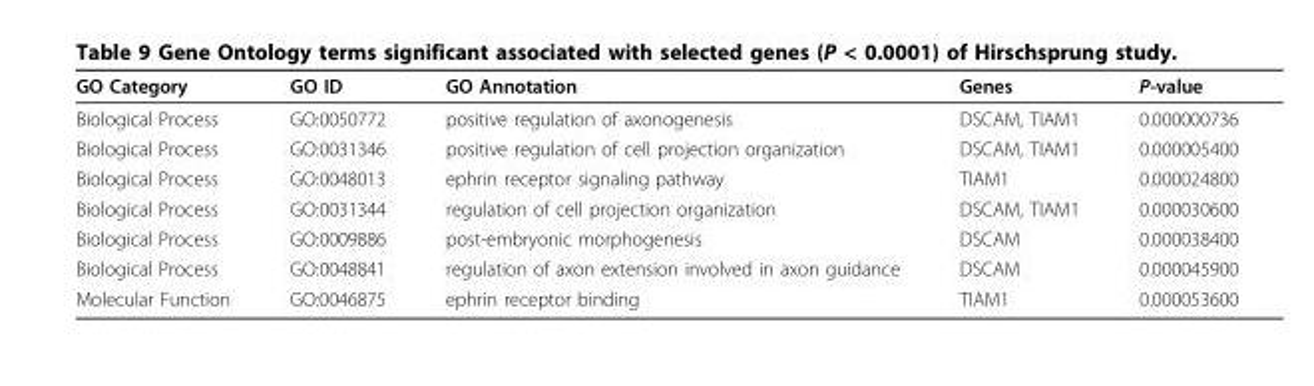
<table><thead><tr><td>GO Category</td><td>GO ID</td><td>GO Annotation</td><td>Genes</td><td>P-value</td></tr></thead><tbody><tr><td>Biological Process</td><td>GO:0050772</td><td>positive regulation of axonogenesis</td><td>DSCAM, TIAM1</td><td>0.000000736</td></tr><tr><td>Biological Process</td><td>GO:0031346</td><td>positive regulation of cell projection organization</td><td>DSCAM, TIAM1</td><td>0.000005400</td></tr><tr><td>Biological Process</td><td>GO:0048013</td><td>ephrin receptor signaling pathway</td><td>TIAM1</td><td>0.000024800</td></tr><tr><td>Biological Process</td><td>GO:0031344</td><td>regulation of cell projection organization</td><td>DSCAM, TIAM1</td><td>0.000030600</td></tr><tr><td>Biological Process</td><td>GO:0009886</td><td>post-embryonic morphogenesis</td><td>DSCAM</td><td>0.000038400</td></tr><tr><td>Biological Process</td><td>GO:0048841</td><td>regulation of axon extension involved in axon guidance</td><td>DSCAM</td><td>0.000045900</td></tr><tr><td>Molecular Function</td><td>GO:0046875</td><td>ephrin receptor binding</td><td>TIAM1</td><td>0.000053600</td></tr></tbody></table>